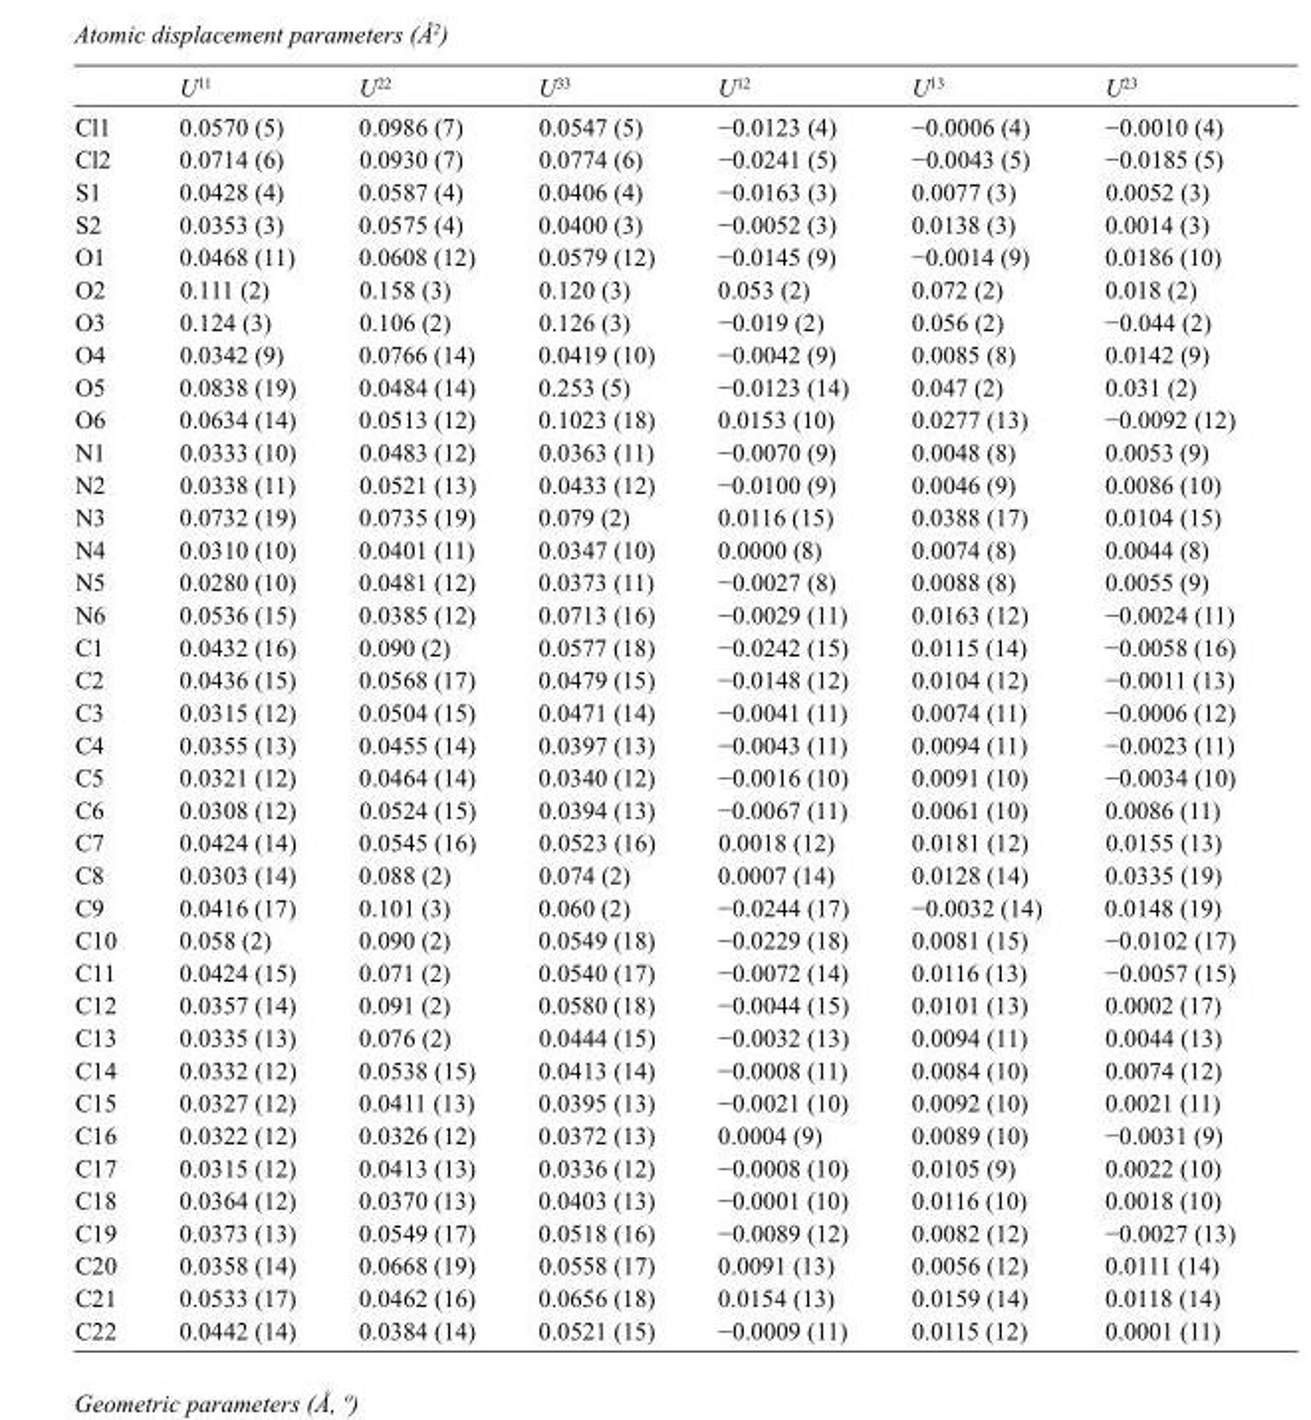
<table><thead><tr><td></td><td>U<sup>11</sup></td><td>U<sup>22</sup></td><td>U<sup>33</sup></td><td>U<sup>12</sup></td><td>U<sup>13</sup></td><td>U<sup>23</sup></td></tr></thead><tbody><tr><td>Cl1</td><td>0.0570 (5)</td><td>0.0986 (7)</td><td>0.0547 (5)</td><td>−0.0123 (4)</td><td>−0.0006 (4)</td><td>−0.0010 (4)</td></tr><tr><td>Cl2</td><td>0.0714 (6)</td><td>0.0930 (7)</td><td>0.0774 (6)</td><td>−0.0241 (5)</td><td>−0.0043 (5)</td><td>−0.0185 (5)</td></tr><tr><td>S1</td><td>0.0428 (4)</td><td>0.0587 (4)</td><td>0.0406 (4)</td><td>−0.0163 (3)</td><td>0.0077 (3)</td><td>0.0052 (3)</td></tr><tr><td>S2</td><td>0.0353 (3)</td><td>0.0575 (4)</td><td>0.0400 (3)</td><td>−0.0052 (3)</td><td>0.0138 (3)</td><td>0.0014 (3)</td></tr><tr><td>O1</td><td>0.0468 (11)</td><td>0.0608 (12)</td><td>0.0579 (12)</td><td>−0.0145 (9)</td><td>−0.0014 (9)</td><td>0.0186 (10)</td></tr><tr><td>O2</td><td>0.111 (2)</td><td>0.158 (3)</td><td>0.120 (3)</td><td>0.053 (2)</td><td>0.072 (2)</td><td>0.018 (2)</td></tr><tr><td>O3</td><td>0.124 (3)</td><td>0.106 (2)</td><td>0.126 (3)</td><td>−0.019 (2)</td><td>0.056 (2)</td><td>−0.044 (2)</td></tr><tr><td>O4</td><td>0.0342 (9)</td><td>0.0766 (14)</td><td>0.0419 (10)</td><td>−0.0042 (9)</td><td>0.0085 (8)</td><td>0.0142 (9)</td></tr><tr><td>O5</td><td>0.0838 (19)</td><td>0.0484 (14)</td><td>0.253 (5)</td><td>−0.0123 (14)</td><td>0.047 (2)</td><td>0.031 (2)</td></tr><tr><td>O6</td><td>0.0634 (14)</td><td>0.0513 (12)</td><td>0.1023 (18)</td><td>0.0153 (10)</td><td>0.0277 (13)</td><td>−0.0092 (12)</td></tr><tr><td>N1</td><td>0.0333 (10)</td><td>0.0483 (12)</td><td>0.0363 (11)</td><td>−0.0070 (9)</td><td>0.0048 (8)</td><td>0.0053 (9)</td></tr><tr><td>N2</td><td>0.0338 (11)</td><td>0.0521 (13)</td><td>0.0433 (12)</td><td>−0.0100 (9)</td><td>0.0046 (9)</td><td>0.0086 (10)</td></tr><tr><td>N3</td><td>0.0732 (19)</td><td>0.0735 (19)</td><td>0.079 (2)</td><td>0.0116 (15)</td><td>0.0388 (17)</td><td>0.0104 (15)</td></tr><tr><td>N4</td><td>0.0310 (10)</td><td>0.0401 (11)</td><td>0.0347 (10)</td><td>0.0000 (8)</td><td>0.0074 (8)</td><td>0.0044 (8)</td></tr><tr><td>N5</td><td>0.0280 (10)</td><td>0.0481 (12)</td><td>0.0373 (11)</td><td>−0.0027 (8)</td><td>0.0088 (8)</td><td>0.0055 (9)</td></tr><tr><td>N6</td><td>0.0536 (15)</td><td>0.0385 (12)</td><td>0.0713 (16)</td><td>−0.0029 (11)</td><td>0.0163 (12)</td><td>−0.0024 (11)</td></tr><tr><td>C1</td><td>0.0432 (16)</td><td>0.090 (2)</td><td>0.0577 (18)</td><td>−0.0242 (15)</td><td>0.0115 (14)</td><td>−0.0058 (16)</td></tr><tr><td>C2</td><td>0.0436 (15)</td><td>0.0568 (17)</td><td>0.0479 (15)</td><td>−0.0148 (12)</td><td>0.0104 (12)</td><td>−0.0011 (13)</td></tr><tr><td>C3</td><td>0.0315 (12)</td><td>0.0504 (15)</td><td>0.0471 (14)</td><td>−0.0041 (11)</td><td>0.0074 (11)</td><td>−0.0006 (12)</td></tr><tr><td>C4</td><td>0.0355 (13)</td><td>0.0455 (14)</td><td>0.0397 (13)</td><td>−0.0043 (11)</td><td>0.0094 (11)</td><td>−0.0023 (11)</td></tr><tr><td>C5</td><td>0.0321 (12)</td><td>0.0464 (14)</td><td>0.0340 (12)</td><td>−0.0016 (10)</td><td>0.0091 (10)</td><td>−0.0034 (10)</td></tr><tr><td>C6</td><td>0.0308 (12)</td><td>0.0524 (15)</td><td>0.0394 (13)</td><td>−0.0067 (11)</td><td>0.0061 (10)</td><td>0.0086 (11)</td></tr><tr><td>C7</td><td>0.0424 (14)</td><td>0.0545 (16)</td><td>0.0523 (16)</td><td>0.0018 (12)</td><td>0.0181 (12)</td><td>0.0155 (13)</td></tr><tr><td>C8</td><td>0.0303 (14)</td><td>0.088 (2)</td><td>0.074 (2)</td><td>0.0007 (14)</td><td>0.0128 (14)</td><td>0.0335 (19)</td></tr><tr><td>C9</td><td>0.0416 (17)</td><td>0.101 (3)</td><td>0.060 (2)</td><td>−0.0244 (17)</td><td>−0.0032 (14)</td><td>0.0148 (19)</td></tr><tr><td>C10</td><td>0.058 (2)</td><td>0.090 (2)</td><td>0.0549 (18)</td><td>−0.0229 (18)</td><td>0.0081 (15)</td><td>−0.0102 (17)</td></tr><tr><td>C11</td><td>0.0424 (15)</td><td>0.071 (2)</td><td>0.0540 (17)</td><td>−0.0072 (14)</td><td>0.0116 (13)</td><td>−0.0057 (15)</td></tr><tr><td>C12</td><td>0.0357 (14)</td><td>0.091 (2)</td><td>0.0580 (18)</td><td>−0.0044 (15)</td><td>0.0101 (13)</td><td>0.0002 (17)</td></tr><tr><td>C13</td><td>0.0335 (13)</td><td>0.076 (2)</td><td>0.0444 (15)</td><td>−0.0032 (13)</td><td>0.0094 (11)</td><td>0.0044 (13)</td></tr><tr><td>C14</td><td>0.0332 (12)</td><td>0.0538 (15)</td><td>0.0413 (14)</td><td>−0.0008 (11)</td><td>0.0084 (10)</td><td>0.0074 (12)</td></tr><tr><td>C15</td><td>0.0327 (12)</td><td>0.0411 (13)</td><td>0.0395 (13)</td><td>−0.0021 (10)</td><td>0.0092 (10)</td><td>0.0021 (11)</td></tr><tr><td>C16</td><td>0.0322 (12)</td><td>0.0326 (12)</td><td>0.0372 (13)</td><td>0.0004 (9)</td><td>0.0089 (10)</td><td>−0.0031 (9)</td></tr><tr><td>C17</td><td>0.0315 (12)</td><td>0.0413 (13)</td><td>0.0336 (12)</td><td>−0.0008 (10)</td><td>0.0105 (9)</td><td>0.0022 (10)</td></tr><tr><td>C18</td><td>0.0364 (12)</td><td>0.0370 (13)</td><td>0.0403 (13)</td><td>−0.0001 (10)</td><td>0.0116 (10)</td><td>0.0018 (10)</td></tr><tr><td>C19</td><td>0.0373 (13)</td><td>0.0549 (17)</td><td>0.0518 (16)</td><td>−0.0089 (12)</td><td>0.0082 (12)</td><td>−0.0027 (13)</td></tr><tr><td>C20</td><td>0.0358 (14)</td><td>0.0668 (19)</td><td>0.0558 (17)</td><td>0.0091 (13)</td><td>0.0056 (12)</td><td>0.0111 (14)</td></tr><tr><td>C21</td><td>0.0533 (17)</td><td>0.0462 (16)</td><td>0.0656 (18)</td><td>0.0154 (13)</td><td>0.0159 (14)</td><td>0.0118 (14)</td></tr><tr><td>C22</td><td>0.0442 (14)</td><td>0.0384 (14)</td><td>0.0521 (15)</td><td>−0.0009 (11)</td><td>0.0115 (12)</td><td>0.0001 (11)</td></tr></tbody></table>